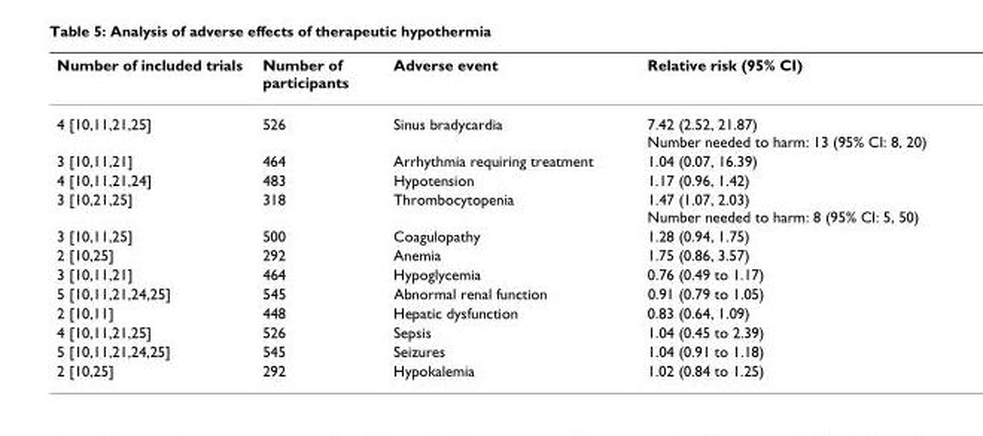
<table><thead><tr><td>Number of included trials</td><td>Number of participants</td><td>Adverse event</td><td>Relative risk (95% CI)</td></tr></thead><tbody><tr><td>4 [10,11,21,25]</td><td>526</td><td>Sinus bradycardia</td><td>7.42 (2.52, 21.87) Number needed to harm: 13 (95% CI: 8, 20)</td></tr><tr><td>3 [10,11,21]</td><td>464</td><td>Arrhythmia requiring treatment</td><td>1.04 (0.07, 16.39)</td></tr><tr><td>4 [10,11,21,24]</td><td>483</td><td>Hypotension</td><td>1.17 (0.96, 1.42)</td></tr><tr><td>3 [10,21,25]</td><td>318</td><td>Thrombocytopenia</td><td>1.47 (1.07, 2.03) Number needed to harm: 8 (95% CI: 5, 50)</td></tr><tr><td>3 [10,11,25]</td><td>500</td><td>Coagulopathy</td><td>1.28 (0.94, 1.75)</td></tr><tr><td>2 [10,25]</td><td>292</td><td>Anemia</td><td>1.75 (0.86, 3.57)</td></tr><tr><td>3 [10,11,21]</td><td>464</td><td>Hypoglycemia</td><td>0.76 (0.49 to 1.17)</td></tr><tr><td>5 [10,11,21,24,25]</td><td>545</td><td>Abnormal renal function</td><td>0.91 (0.79 to 1.05)</td></tr><tr><td>2 [10,11]</td><td>448</td><td>Hepatic dysfunction</td><td>0.83 (0.64, 1.09)</td></tr><tr><td>4 [10,11,21,25]</td><td>526</td><td>Sepsis</td><td>1.04 (0.45 to 2.39)</td></tr><tr><td>5 [10,11,21,24,25]</td><td>545</td><td>Seizures</td><td>1.04 (0.91 to 1.18)</td></tr><tr><td>2 [10,25]</td><td>292</td><td>Hypokalemia</td><td>1.02 (0.84 to 1.25)</td></tr></tbody></table>